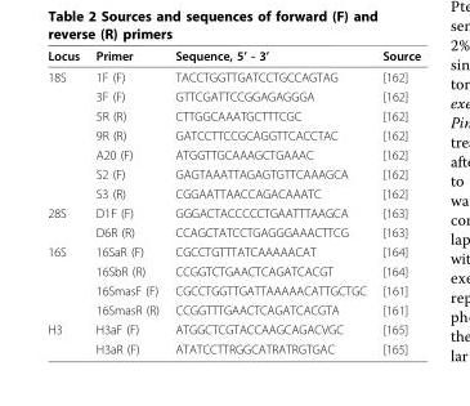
<table><thead><tr><td>Locus</td><td>Primer</td><td>Sequence, 5’ - 3’</td><td>Source</td></tr></thead><tbody><tr><td rowspan="7">18S</td><td>1F (F)</td><td>TACCTGGTTGATCCTGCCAGTAG</td><td>[162]</td></tr><tr><td>3F (F)</td><td>GTTCGATTCCGGAGAGGGA</td><td>[162]</td></tr><tr><td>5R (R)</td><td>CTTGGCAAATGCTTTCGC</td><td>[162]</td></tr><tr><td>9R (R)</td><td>GATCCTTCCGCAGGTTCACCTAC</td><td>[162]</td></tr><tr><td>A20 (F)</td><td>ATGGTTGCAAAGCTGAAAC</td><td>[162]</td></tr><tr><td>S2 (F)</td><td>GAGTAAATTAGAGTGTTCAAAGCA</td><td>[162]</td></tr><tr><td>S3 (R)</td><td>CGGAATTAACCAGACAAATC</td><td>[162]</td></tr><tr><td rowspan="2">28S</td><td>D1F (F)</td><td>GGGACTACCCCCTGAATTTAAGCA</td><td>[163]</td></tr><tr><td>D6R (R)</td><td>CCAGCTATCCTGAGGGAAACTTCG</td><td>[163]</td></tr><tr><td rowspan="4">16S</td><td>16SaR (F)</td><td>CGCCTGTTTATCAAAAACAT</td><td>[164]</td></tr><tr><td>16SbR (R)</td><td>CCGGTCTGAACTCAGATCACGT</td><td>[164]</td></tr><tr><td>16SmasF (F)</td><td>CGCCTGGTTGATTAAAAACATTGCTGC</td><td>[161]</td></tr><tr><td>16SmasR (R)</td><td>CCGGTTTGAACTCAGATCACGTA</td><td>[161]</td></tr><tr><td rowspan="2">H3</td><td>H3aF (F)</td><td>ATGGCTCGTACCAAGCAGACVGC</td><td>[165]</td></tr><tr><td>H3aR (F)</td><td>ATATCCTTRGGCATRATRGTGAC</td><td>[165]</td></tr></tbody></table>